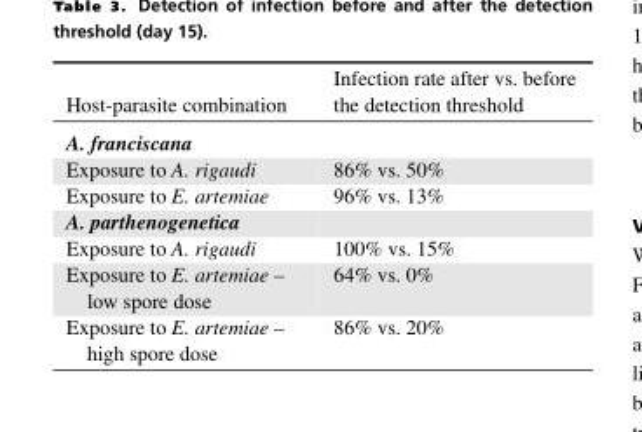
<table><thead><tr><td>Host-parasite combination</td><td>Infection rate after vs. before the detection threshold</td></tr></thead><tbody><tr><td colspan="2">A. franciscana</td></tr><tr><td>Exposure to A. rigaudi</td><td>86% vs. 50%</td></tr><tr><td>Exposure to E. artemiae</td><td>96% vs. 13%</td></tr><tr><td colspan="2">A. parthenogenetica</td></tr><tr><td>Exposure to A. rigaudi</td><td>100% vs. 15%</td></tr><tr><td>Exposure to E. artemiae – low spore dose</td><td>64% vs. 0%</td></tr><tr><td>Exposure to E. artemiae – high spore dose</td><td>86% vs. 20%</td></tr></tbody></table>